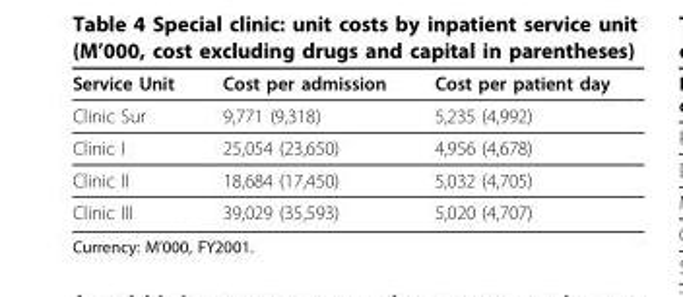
<table><thead><tr><td>Service Unit</td><td>Cost per admission</td><td>Cost per patient day</td></tr></thead><tbody><tr><td>Clinic Sur</td><td>9,771 (9,318)</td><td>5,235 (4,992)</td></tr><tr><td>Clinic I</td><td>25,054 (23,650)</td><td>4,956 (4,678)</td></tr><tr><td>Clinic II</td><td>18,684 (17,450)</td><td>5,032 (4,705)</td></tr><tr><td>Clinic III</td><td>39,029 (35,593)</td><td>5,020 (4,707)</td></tr></tbody></table>